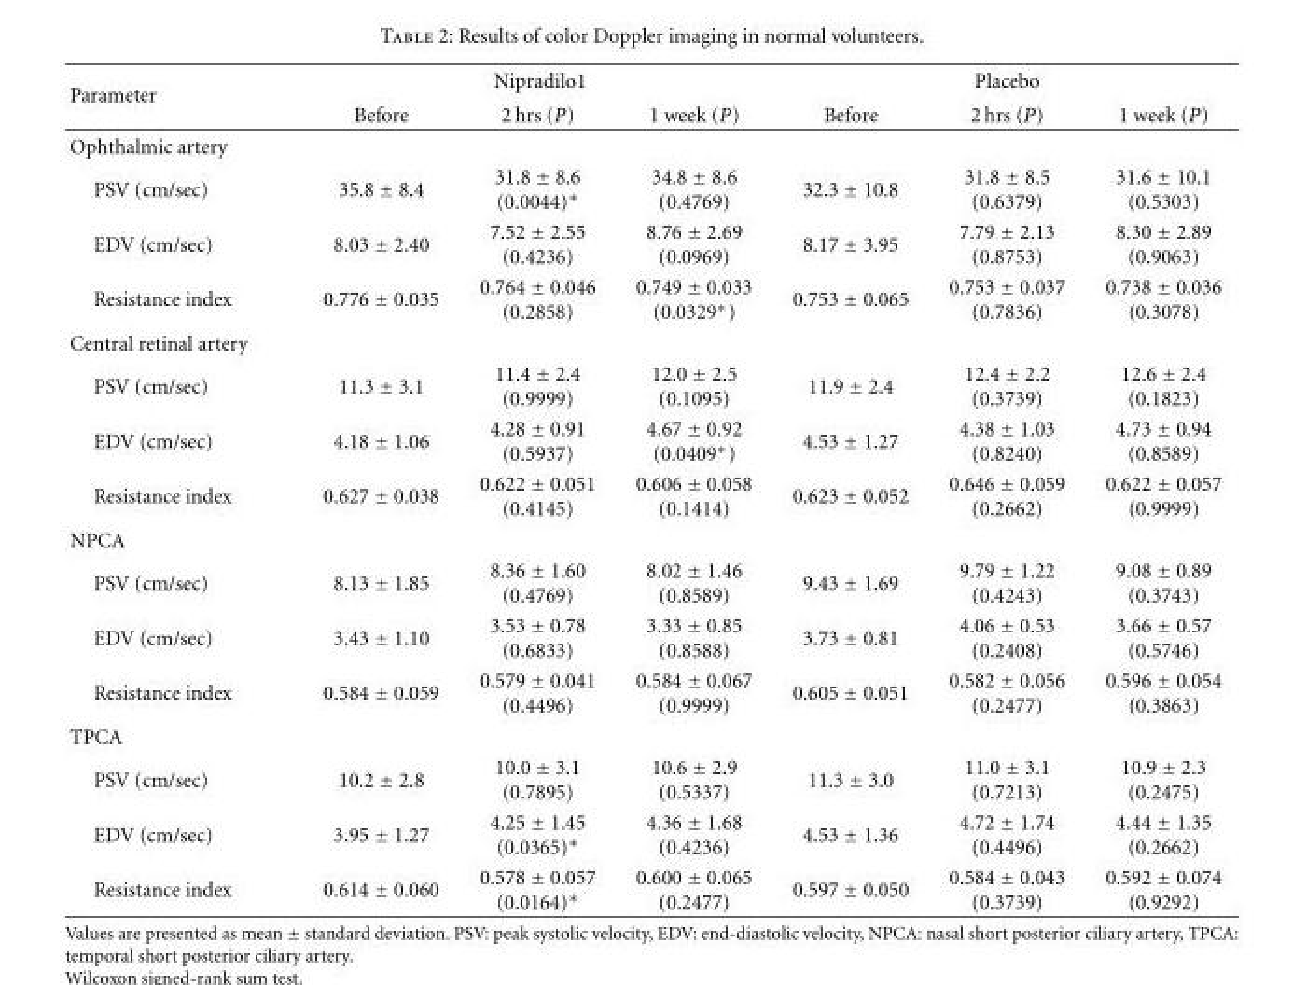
<table><thead><tr><td rowspan="2">Parameter</td><td colspan="3">Nipradilo1</td><td colspan="3">Placebo</td></tr><tr><td>Before</td><td>2 hrs (P)</td><td>1 week (P)</td><td>Before</td><td>2 hrs (P)</td><td>1 week (P)</td></tr></thead><tbody><tr><td colspan="7">Ophthalmic artery</td></tr><tr><td>PSV (cm/sec)</td><td>35.8 ± 8.4</td><td>31.8 ± 8.6 (0.0044)∗</td><td>34.8 ± 8.6 (0.4769)</td><td>32.3 ± 10.8</td><td>31.8 ± 8.5 (0.6379)</td><td>31.6 ± 10.1 (0.5303)</td></tr><tr><td>EDV (cm/sec)</td><td>8.03 ± 2.40</td><td>7.52 ± 2.55 (0.4236)</td><td>8.76 ± 2.69 (0.0969)</td><td>8.17 ± 3.95</td><td>7.79 ± 2.13 (0.8753)</td><td>8.30 ± 2.89 (0.9063)</td></tr><tr><td>Resistance index</td><td>0.776 ± 0.035</td><td>0.764 ± 0.046 (0.2858)</td><td>0.749 ± 0.033 (0.0329∗)</td><td>0.753 ± 0.065</td><td>0.753 ± 0.037 (0.7836)</td><td>0.738 ± 0.036 (0.3078)</td></tr><tr><td colspan="7">Central retinal artery</td></tr><tr><td>PSV (cm/sec)</td><td>11.3 ± 3.1</td><td>11.4 ± 2.4 (0.9999)</td><td>12.0 ± 2.5 (0.1095)</td><td>11.9 ± 2.4</td><td>12.4 ± 2.2 (0.3739)</td><td>12.6 ± 2.4 (0.1823)</td></tr><tr><td>EDV (cm/sec)</td><td>4.18 ± 1.06</td><td>4.28 ± 0.91 (0.5937)</td><td>4.67 ± 0.92 (0.0409∗)</td><td>4.53 ± 1.27</td><td>4.38 ± 1.03 (0.8240)</td><td>4.73 ± 0.94 (0.8589)</td></tr><tr><td>Resistance index</td><td>0.627 ± 0.038</td><td>0.622 ± 0.051 (0.4145)</td><td>0.606 ± 0.058 (0.1414)</td><td>0.623 ± 0.052</td><td>0.646 ± 0.059 (0.2662)</td><td>0.622 ± 0.057 (0.9999)</td></tr><tr><td colspan="7">NPCA</td></tr><tr><td>PSV (cm/sec)</td><td>8.13 ± 1.85</td><td>8.36 ± 1.60 (0.4769)</td><td>8.02 ± 1.46 (0.8589)</td><td>9.43 ± 1.69</td><td>9.79 ± 1.22 (0.4243)</td><td>9.08 ± 0.89 (0.3743)</td></tr><tr><td>EDV (cm/sec)</td><td>3.43 ± 1.10</td><td>3.53 ± 0.78 (0.6833)</td><td>3.33 ± 0.85 (0.8588)</td><td>3.73 ± 0.81</td><td>4.06 ± 0.53 (0.2408)</td><td>3.66 ± 0.57 (0.5746)</td></tr><tr><td>Resistance index</td><td>0.584 ± 0.059</td><td>0.579 ± 0.041 (0.4496)</td><td>0.584 ± 0.067 (0.9999)</td><td>0.605 ± 0.051</td><td>0.582 ± 0.056 (0.2477)</td><td>0.596 ± 0.054 (0.3863)</td></tr><tr><td colspan="7">TPCA</td></tr><tr><td>PSV (cm/sec)</td><td>10.2 ± 2.8</td><td>10.0 ± 3.1 (0.7895)</td><td>10.6 ± 2.9 (0.5337)</td><td>11.3 ± 3.0</td><td>11.0 ± 3.1 (0.7213)</td><td>10.9 ± 2.3 (0.2475)</td></tr><tr><td>EDV (cm/sec)</td><td>3.95 ± 1.27</td><td>4.25 ± 1.45 (0.0365)∗</td><td>4.36 ± 1.68 (0.4236)</td><td>4.53 ± 1.36</td><td>4.72 ± 1.74 (0.4496)</td><td>4.44 ± 1.35 (0.2662)</td></tr><tr><td>Resistance index</td><td>0.614 ± 0.060</td><td>0.578 ± 0.057 (0.0164)∗</td><td>0.600 ± 0.065 (0.2477)</td><td>0.597 ± 0.050</td><td>0.584 ± 0.043 (0.3739)</td><td>0.592 ± 0.074 (0.9292)</td></tr></tbody></table>